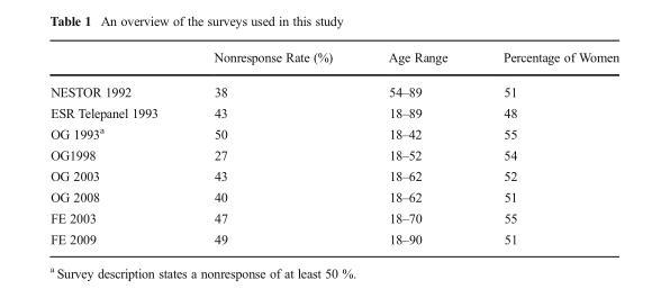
<table><thead><tr><td></td><td>Nonresponse Rate (%)</td><td>Age Range</td><td>Percentage of Women</td></tr></thead><tbody><tr><td>NESTOR 1992</td><td>38</td><td>54–89</td><td>51</td></tr><tr><td>ESR Telepanel 1993</td><td>43</td><td>18–89</td><td>48</td></tr><tr><td>OG 1993<sup>a</sup></td><td>50</td><td>18–42</td><td>55</td></tr><tr><td>OG1998</td><td>27</td><td>18–52</td><td>54</td></tr><tr><td>OG 2003</td><td>43</td><td>18–62</td><td>52</td></tr><tr><td>OG 2008</td><td>40</td><td>18–62</td><td>51</td></tr><tr><td>FE 2003</td><td>47</td><td>18–70</td><td>55</td></tr><tr><td>FE 2009</td><td>49</td><td>18–90</td><td>51</td></tr></tbody></table>